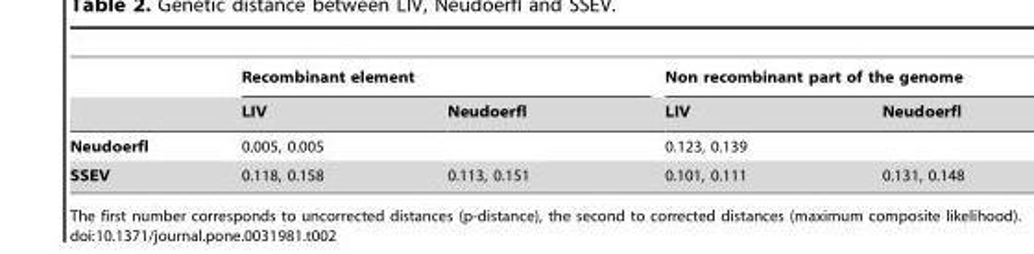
<table><thead><tr><td rowspan="2"></td><td colspan="2">Recombinant element</td><td colspan="2">Non recombinant part of the genome</td></tr><tr><td>LIV</td><td>Neudoerfl</td><td>LIV</td><td>Neudoerfl</td></tr></thead><tbody><tr><td>Neudoerfl</td><td>0.005, 0.005</td><td></td><td>0.123, 0.139</td><td></td></tr><tr><td>SSEV</td><td>0.118, 0.158</td><td>0.113, 0.151</td><td>0.101, 0.111</td><td>0.131, 0.148</td></tr></tbody></table>